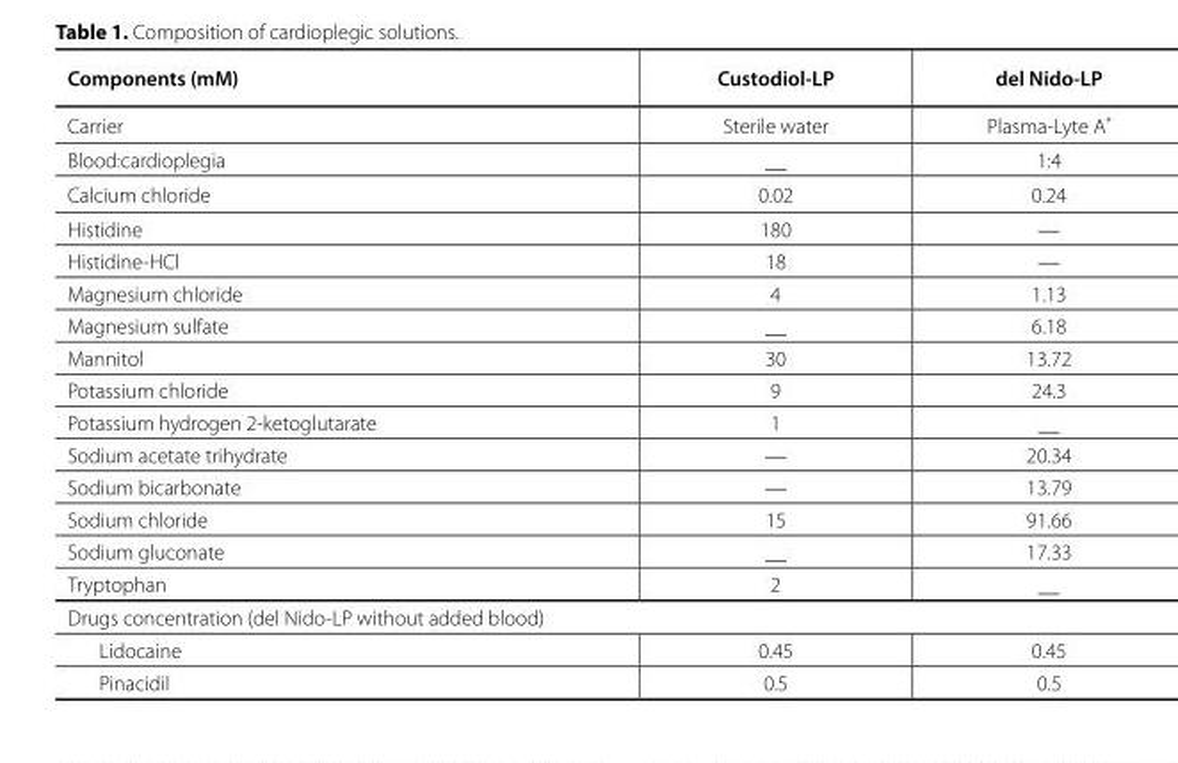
<table><thead><tr><td>Components (mM)</td><td>Custodiol-LP</td><td>del Nido-LP</td></tr></thead><tbody><tr><td>Carrier</td><td>Sterile water</td><td>Plasma-Lyte A<sup>®</sup></td></tr><tr><td>Blood:cardioplegia</td><td>__</td><td>1:4</td></tr><tr><td>Calcium chloride</td><td>0.02</td><td>0.24</td></tr><tr><td>Histidine</td><td>180</td><td>__</td></tr><tr><td>Histidine-HCl</td><td>18</td><td>__</td></tr><tr><td>Magnesium chloride</td><td>4</td><td>1.13</td></tr><tr><td>Magnesium sulfate</td><td>__</td><td>6.18</td></tr><tr><td>Mannitol</td><td>30</td><td>13.72</td></tr><tr><td>Potassium chloride</td><td>9</td><td>24.3</td></tr><tr><td>Potassium hydrogen 2-ketoglutarate</td><td>1</td><td>__</td></tr><tr><td>Sodium acetate trihydrate</td><td>__</td><td>20.34</td></tr><tr><td>Sodium bicarbonate</td><td>__</td><td>13.79</td></tr><tr><td>Sodium chloride</td><td>15</td><td>91.66</td></tr><tr><td>Sodium gluconate</td><td>__</td><td>17.33</td></tr><tr><td>Tryptophan</td><td>2</td><td>__</td></tr><tr><td colspan="3">Drugs concentration (del Nido-LP without added blood)</td></tr><tr><td>Lidocaine</td><td>0.45</td><td>0.45</td></tr><tr><td>Pinacidil</td><td>0.5</td><td>0.5</td></tr></tbody></table>